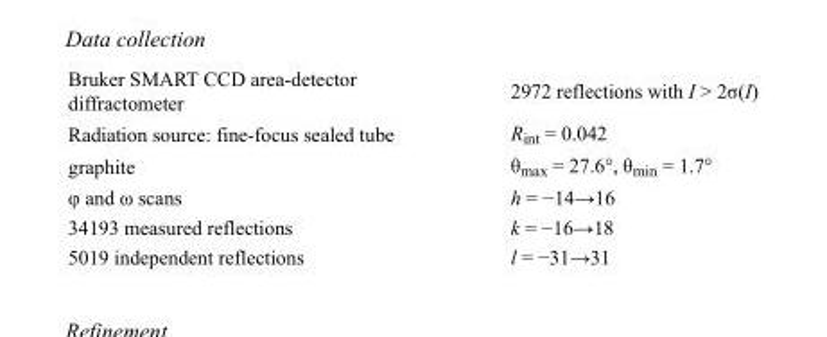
<table><tbody><tr><td>Bruker SMART CCD area-detector diffractometer</td><td>2972 reflections with I &gt; 2σ(I)</td></tr><tr><td>Radiation source: fine-focus sealed tube</td><td>R<sub>int</sub> = 0.042</td></tr><tr><td>graphite</td><td>θ<sub>max</sub> = 27.6°, θ<sub>min</sub> = 1.7°</td></tr><tr><td>φ and ω scans</td><td>h = −14→16</td></tr><tr><td>34193 measured reflections</td><td>k = −16→18</td></tr><tr><td>5019 independent reflections</td><td>l = −31→31</td></tr></tbody></table>